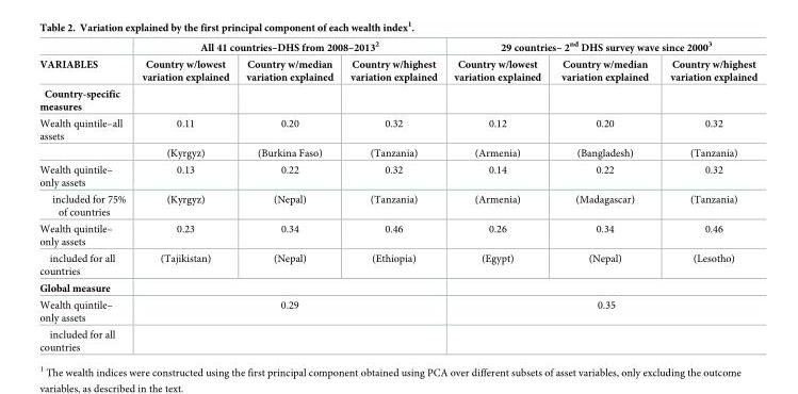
<table><thead><tr><td rowspan="2">VARIABLES</td><td colspan="3">All 41 countries–DHS from 2008–2013<sup>2</sup></td><td colspan="3">29 countries– 2<sup>nd</sup> DHS survey wave since 2000<sup>3</sup></td></tr><tr><td>Country w/lowest variation explained</td><td>Country w/median variation explained</td><td>Country w/highest variation explained</td><td>Country w/lowest variation explained</td><td>Country w/median variation explained</td><td>Country w/highest variation explained</td></tr></thead><tbody><tr><td colspan="7">Country-specific measures</td></tr><tr><td rowspan="2">Wealth quintile–all assets</td><td>0.11</td><td>0.20</td><td>0.32</td><td>0.12</td><td>0.20</td><td>0.32</td></tr><tr><td>(Kyrgyz)</td><td>(Burkina Faso)</td><td>(Tanzania)</td><td>(Armenia)</td><td>(Bangladesh)</td><td>(Tanzania)</td></tr><tr><td>Wealth quintile– only assets</td><td>0.13</td><td>0.22</td><td>0.32</td><td>0.14</td><td>0.22</td><td>0.32</td></tr><tr><td>included for 75% of countries</td><td>(Kyrgyz)</td><td>(Nepal)</td><td>(Tanzania)</td><td>(Armenia)</td><td>(Madagascar)</td><td>(Tanzania)</td></tr><tr><td>Wealth quintile– only assets</td><td>0.23</td><td>0.34</td><td>0.46</td><td>0.26</td><td>0.34</td><td>0.46</td></tr><tr><td>included for all countries</td><td>(Tajikistan)</td><td>(Nepal)</td><td>(Ethiopia)</td><td>(Egypt)</td><td>(Nepal)</td><td>(Lesotho)</td></tr><tr><td colspan="7">Global measure</td></tr><tr><td>Wealth quintile– only assets</td><td colspan="3">0.29</td><td colspan="3">0.35</td></tr><tr><td>included for all countries</td><td colspan="3"></td><td colspan="3"></td></tr></tbody></table>